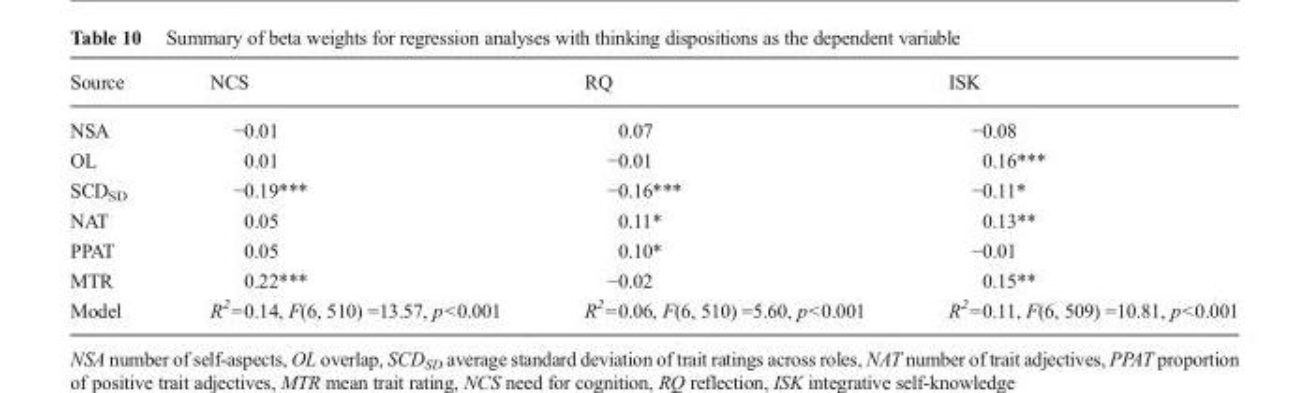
<table><thead><tr><td>Source</td><td>NCS</td><td>RQ</td><td>ISK</td></tr></thead><tbody><tr><td>NSA</td><td>−0.01</td><td>0.07</td><td>−0.08</td></tr><tr><td>OL</td><td>0.01</td><td>−0.01</td><td>0.16***</td></tr><tr><td>SCD<sub>SD</sub></td><td>−0.19***</td><td>−0.16***</td><td>−0.11*</td></tr><tr><td>NAT</td><td>0.05</td><td>0.11*</td><td>0.13**</td></tr><tr><td>PPAT</td><td>0.05</td><td>0.10*</td><td>−0.01</td></tr><tr><td>MTR</td><td>0.22***</td><td>−0.02</td><td>0.15**</td></tr><tr><td>Model</td><td>R<sup>2</sup>=0.14, F(6, 510) =13.57, p&lt;0.001</td><td>R<sup>2</sup>=0.06, F(6, 510) =5.60, p&lt;0.001</td><td>R<sup>2</sup>=0.11, F(6, 509) =10.81, p&lt;0.001</td></tr></tbody></table>